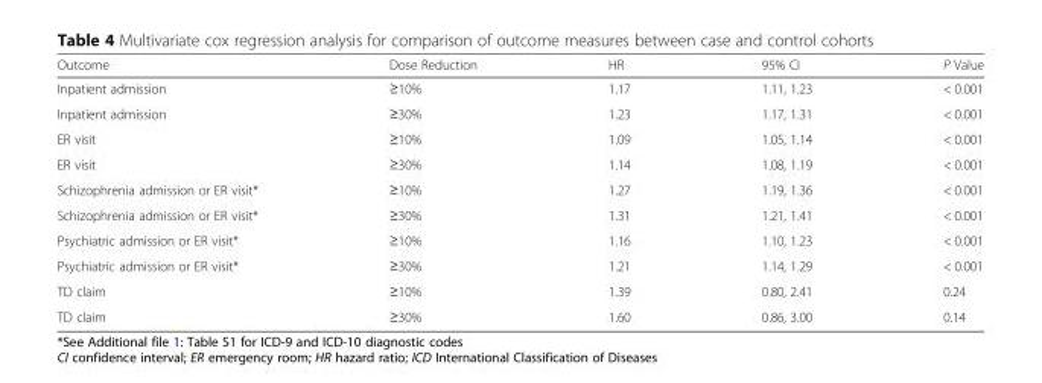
<table><thead><tr><td>Outcome</td><td>Dose Reduction</td><td>HR</td><td>95% CI</td><td>P Value</td></tr></thead><tbody><tr><td>Inpatient admission</td><td>≥10%</td><td>1.17</td><td>1.11, 1.23</td><td>&lt; 0.001</td></tr><tr><td>Inpatient admission</td><td>≥30%</td><td>1.23</td><td>1.17, 1.31</td><td>&lt; 0.001</td></tr><tr><td>ER visit</td><td>≥10%</td><td>1.09</td><td>1.05, 1.14</td><td>&lt; 0.001</td></tr><tr><td>ER visit</td><td>≥30%</td><td>1.14</td><td>1.08, 1.19</td><td>&lt; 0.001</td></tr><tr><td>Schizophrenia admission or ER visit*</td><td>≥10%</td><td>1.27</td><td>1.19, 1.36</td><td>&lt; 0.001</td></tr><tr><td>Schizophrenia admission or ER visit*</td><td>≥30%</td><td>1.31</td><td>1.21, 1.41</td><td>&lt; 0.001</td></tr><tr><td>Psychiatric admission or ER visit*</td><td>≥10%</td><td>1.16</td><td>1.10, 1.23</td><td>&lt; 0.001</td></tr><tr><td>Psychiatric admission or ER visit*</td><td>≥30%</td><td>1.21</td><td>1.14, 1.29</td><td>&lt; 0.001</td></tr><tr><td>TD claim</td><td>≥10%</td><td>1.39</td><td>0.80, 2.41</td><td>0.24</td></tr><tr><td>TD claim</td><td>≥30%</td><td>1.60</td><td>0.86, 3.00</td><td>0.14</td></tr></tbody></table>